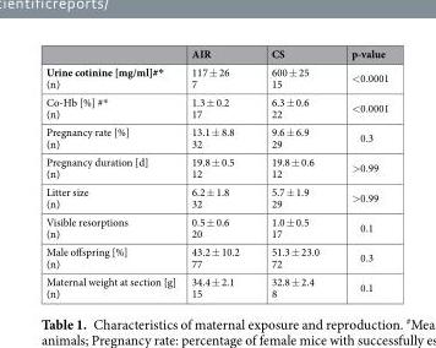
<table><thead><tr><td></td><td>AIR</td><td>CS</td><td>p-value</td></tr></thead><tbody><tr><td>Urine cotinine [mg/ml]#* (n)</td><td>117 ± 26 7</td><td>600 ± 25 15</td><td>&lt;0.0001</td></tr><tr><td>Co-Hb [%] #* (n)</td><td>1.3 ± 0.2 17</td><td>6.3 ± 0.6 22</td><td>&lt;0.0001</td></tr><tr><td>Pregnancy rate [%] (n)</td><td>13.1 ± 8.8 32</td><td>9.6 ± 6.9 29</td><td>0.3</td></tr><tr><td>Pregnancy duration [d] (n)</td><td>19.8 ± 0.5 12</td><td>19.8 ± 0.6 12</td><td>&gt;0.99</td></tr><tr><td>Litter size (n)</td><td>6.2 ± 1.8 32</td><td>5.7 ± 1.9 29</td><td>&gt;0.99</td></tr><tr><td>Visible resorptions (n)</td><td>0.5 ± 0.6 20</td><td>1.0 ± 0.5 17</td><td>0.1</td></tr><tr><td>Male offspring [%] (n)</td><td>43.2 ± 10.2 77</td><td>51.3 ± 23.0 72</td><td>0.3</td></tr><tr><td>Maternal weight at section [g] (n)</td><td>34.4 ± 2.1 15</td><td>32.8 ± 2.4 8</td><td>0.1</td></tr></tbody></table>